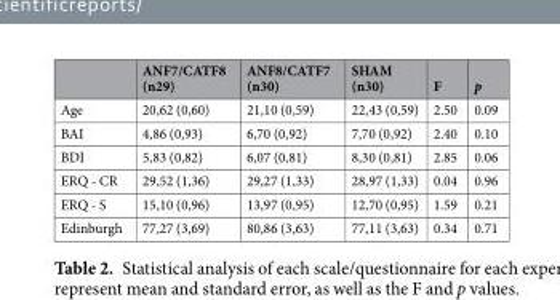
<table><thead><tr><td></td><td>ANF7/CATF8 (n29)</td><td>ANF8/CATF7 (n30)</td><td>SHAM (n30)</td><td>F</td><td>p</td></tr></thead><tbody><tr><td>Age</td><td>20,62 (0,60)</td><td>21,10 (0,59)</td><td>22,43 (0,59)</td><td>2.50</td><td>0.09</td></tr><tr><td>BAI</td><td>4,86 (0,93)</td><td>6,70 (0,92)</td><td>7,70 (0,92)</td><td>2.40</td><td>0.10</td></tr><tr><td>BDI</td><td>5,83 (0,82)</td><td>6,07 (0,81)</td><td>8,30 (0,81)</td><td>2.85</td><td>0.06</td></tr><tr><td>ERQ - CR</td><td>29,52 (1,36)</td><td>29,27 (1,33)</td><td>28,97 (1,33)</td><td>0.04</td><td>0.96</td></tr><tr><td>ERQ - S</td><td>15,10 (0,96)</td><td>13,97 (0,95)</td><td>12,70 (0,95)</td><td>1.59</td><td>0.21</td></tr><tr><td>Edinburgh</td><td>77,27 (3,69)</td><td>80,86 (3,63)</td><td>77,11 (3,63)</td><td>0.34</td><td>0.71</td></tr></tbody></table>